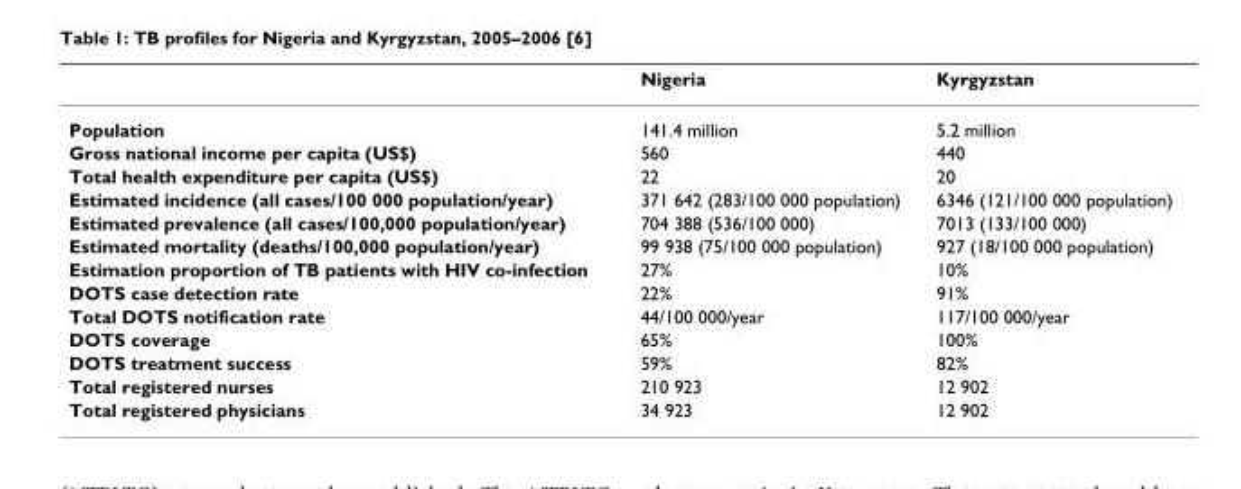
<table><thead><tr><td></td><td>Nigeria</td><td>Kyrgyzstan</td></tr></thead><tbody><tr><td>Population</td><td>141.4 million</td><td>5.2 million</td></tr><tr><td>Gross national income per capita (US$)</td><td>560</td><td>440</td></tr><tr><td>Total health expenditure per capita (US$)</td><td>22</td><td>20</td></tr><tr><td>Estimated incidence (all cases/100 000 population/year)</td><td>371 642 (283/100 000 population)</td><td>6346 (121/100 000 population)</td></tr><tr><td>Estimated prevalence (all cases/100,000 population/year)</td><td>704 388 (536/100 000)</td><td>7013 (133/100 000)</td></tr><tr><td>Estimated mortality (deaths/100,000 population/year)</td><td>99 938 (75/100 000 population)</td><td>927 (18/100 000 population)</td></tr><tr><td>Estimation proportion of TB patients with HIV co-infection</td><td>27%</td><td>10%</td></tr><tr><td>DOTS case detection rate</td><td>22%</td><td>91%</td></tr><tr><td>Total DOTS notification rate</td><td>44/100 000/year</td><td>117/100 000/year</td></tr><tr><td>DOTS coverage</td><td>65%</td><td>100%</td></tr><tr><td>DOTS treatment success</td><td>59%</td><td>82%</td></tr><tr><td>Total registered nurses</td><td>210 923</td><td>12 902</td></tr><tr><td>Total registered physicians</td><td>34 923</td><td>12 902</td></tr></tbody></table>